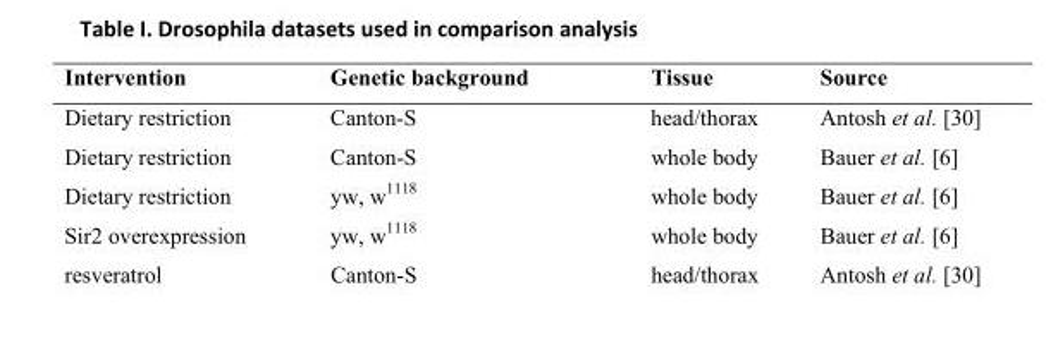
<table><thead><tr><td rowspan="6">Intervention Dietary restriction Dietary restriction Dietary restriction Sir2 overexpression resveratrol</td><td rowspan="6">Genetic background Canton-S Canton-S yw, w1118 yw, w1118 Canton-S</td><td rowspan="6">Tissue head/thorax whole body whole body whole body head/thorax</td><td rowspan="6">Source Antosh et al. [30] Bauer et al. [6] Bauer et al. [6] Bauer et al. [6] Antosh et al. [30]</td></tr><tr></tr><tr></tr><tr></tr><tr></tr><tr></tr></thead><tbody></tbody></table>